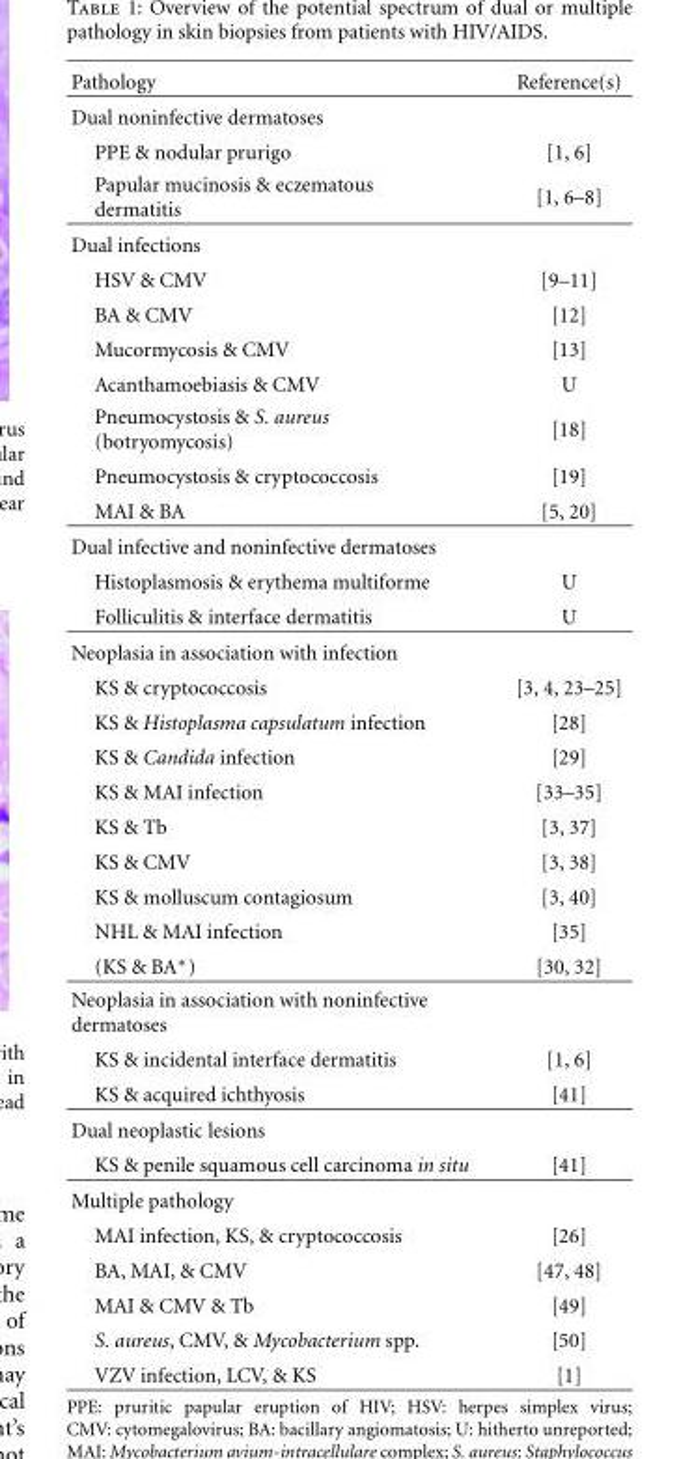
<table><thead><tr><td>Pathology</td><td>Reference(s)</td></tr></thead><tbody><tr><td colspan="2">Dual noninfective dermatoses</td></tr><tr><td>PPE &amp; nodular prurigo</td><td>[1, 6]</td></tr><tr><td>Papular mucinosis &amp; eczematous dermatitis</td><td>[1, 6–8]</td></tr><tr><td colspan="2">Dual infections</td></tr><tr><td>HSV &amp; CMV</td><td>[9–11]</td></tr><tr><td>BA &amp; CMV</td><td>[12]</td></tr><tr><td>Mucormycosis &amp; CMV</td><td>[13]</td></tr><tr><td>Acanthamoebiasis &amp; CMV</td><td>U</td></tr><tr><td>Pneumocystosis &amp; S. aureus (botryomycosis)</td><td>[18]</td></tr><tr><td>Pneumocystosis &amp; cryptococcosis</td><td>[19]</td></tr><tr><td>MAI &amp; BA</td><td>[5, 20]</td></tr><tr><td colspan="2">Dual infective and noninfective dermatoses</td></tr><tr><td>Histoplasmosis &amp; erythema multiforme</td><td>U</td></tr><tr><td>Folliculitis &amp; interface dermatitis</td><td>U</td></tr><tr><td colspan="2">Neoplasia in association with infection</td></tr><tr><td>KS &amp; cryptococcosis</td><td>[3, 4, 23–25]</td></tr><tr><td>KS &amp; Histoplasma capsulatum infection</td><td>[28]</td></tr><tr><td>KS &amp; Candida infection</td><td>[29]</td></tr><tr><td>KS &amp; MAI infection</td><td>[33–35]</td></tr><tr><td>KS &amp; Tb</td><td>[3, 37]</td></tr><tr><td>KS &amp; CMV</td><td>[3, 38]</td></tr><tr><td>KS &amp; molluscum contagiosum</td><td>[3, 40]</td></tr><tr><td>NHL &amp; MAI infection</td><td>[35]</td></tr><tr><td>(KS &amp; BA∗)</td><td>[30, 32]</td></tr><tr><td colspan="2">Neoplasia in association with noninfective dermatoses</td></tr><tr><td>KS &amp; incidental interface dermatitis</td><td>[1, 6]</td></tr><tr><td>KS &amp; acquired ichthyosis</td><td>[41]</td></tr><tr><td colspan="2">Dual neoplastic lesions</td></tr><tr><td>KS &amp; penile squamous cell carcinoma in situ</td><td>[41]</td></tr><tr><td colspan="2">Multiple pathology</td></tr><tr><td>MAI infection, KS, &amp; cryptococcosis</td><td>[26]</td></tr><tr><td>BA, MAI, &amp; CMV</td><td>[47, 48]</td></tr><tr><td>MAI &amp; CMV &amp; Tb</td><td>[49]</td></tr><tr><td>S. aureus, CMV, &amp; Mycobacterium spp.</td><td>[50]</td></tr><tr><td>VZV infection, LCV, &amp; KS</td><td>[1]</td></tr></tbody></table>